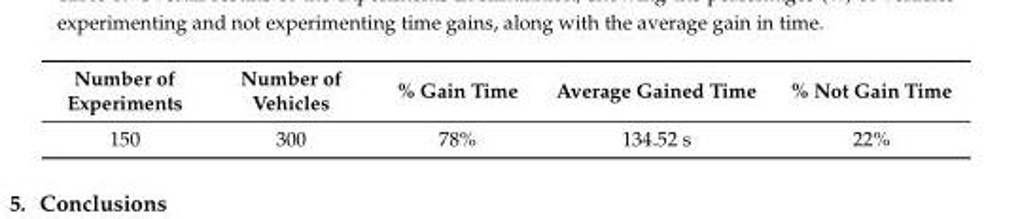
<table><thead><tr><td>Number of Experiments</td><td>Number of Vehicles</td><td>% Gain Time</td><td>Average Gained Time</td><td>% Not Gain Time</td></tr></thead><tbody><tr><td>150</td><td>300</td><td>78%</td><td>134.52 s</td><td>22%</td></tr></tbody></table>